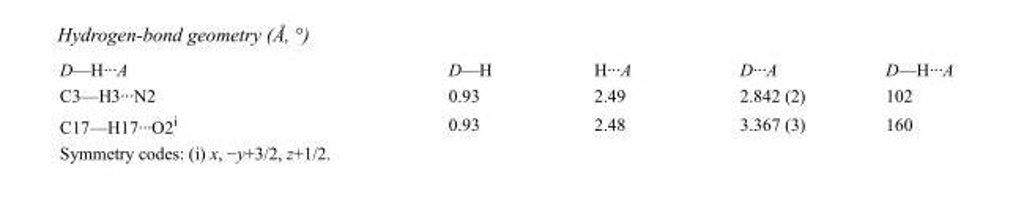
<table><tbody><tr><td>D—H···A</td><td>D—H</td><td>H···A</td><td>D···A</td><td>D—H···A</td></tr><tr><td>C3—H3···N2</td><td>0.93</td><td>2.49</td><td>2.842 (2)</td><td>102</td></tr><tr><td>C17—H17···O2<sup>i</sup></td><td>0.93</td><td>2.48</td><td>3.367 (3)</td><td>160</td></tr></tbody></table>